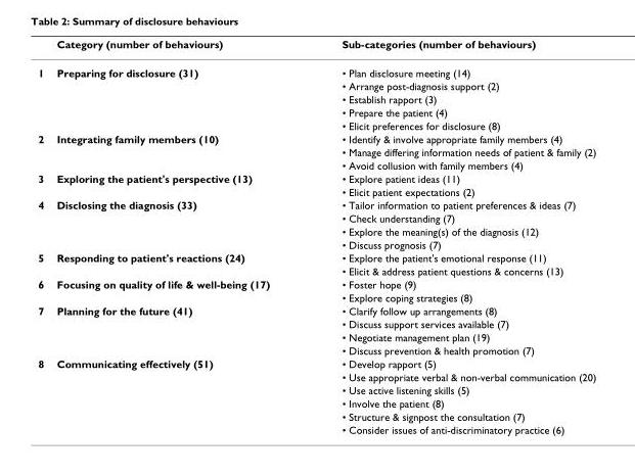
<table><thead><tr><td></td><td>Category (number of behaviours)</td><td>Sub-categories (number of behaviours)</td></tr></thead><tbody><tr><td rowspan="5">1</td><td>Preparing for disclosure (31)</td><td>• Plan disclosure meeting (14)</td></tr><tr><td></td><td>• Arrange post-diagnosis support (2)</td></tr><tr><td></td><td>• Establish rapport (3)</td></tr><tr><td></td><td>• Prepare the patient (4)</td></tr><tr><td></td><td>• Elicit preferences for disclosure (8)</td></tr><tr><td rowspan="3">2</td><td>Integrating family members (10)</td><td>• Identify &amp; involve appropriate family members (4)</td></tr><tr><td></td><td>• Manage differing information needs of patient &amp; family (2)</td></tr><tr><td></td><td>• Avoid collusion with family members (4)</td></tr><tr><td rowspan="2">3</td><td>Exploring the patient&#x27;s perspective (13)</td><td>• Explore patient ideas (11)</td></tr><tr><td></td><td>• Elicit patient expectations (2)</td></tr><tr><td rowspan="4">4</td><td>Disclosing the diagnosis (33)</td><td>• Tailor information to patient preferences &amp; ideas (7)</td></tr><tr><td></td><td>• Check understanding (7)</td></tr><tr><td></td><td>• Explore the meaning(s) of the diagnosis (12)</td></tr><tr><td></td><td>• Discuss prognosis (7)</td></tr><tr><td rowspan="2">5</td><td>Responding to patient&#x27;s reactions (24)</td><td>• Explore the patient&#x27;s emotional response (11)</td></tr><tr><td></td><td>• Elicit &amp; address patient questions &amp; concerns (13)</td></tr><tr><td rowspan="2">6</td><td>Focusing on quality of life &amp; well-being (17)</td><td>• Foster hope (9)</td></tr><tr><td></td><td>• Explore coping strategies (8)</td></tr><tr><td rowspan="4">7</td><td>Planning for the future (41)</td><td>• Clarify follow up arrangements (8)</td></tr><tr><td></td><td>• Discuss support services available (7)</td></tr><tr><td></td><td>• Negotiate management plan (19)</td></tr><tr><td></td><td>• Discuss prevention &amp; health promotion (7)</td></tr><tr><td rowspan="6">8</td><td>Communicating effectively (51)</td><td>• Develop rapport (5)</td></tr><tr><td></td><td>• Use appropriate verbal &amp; non-verbal communication (20)</td></tr><tr><td></td><td>• Use active listening skills (5)</td></tr><tr><td></td><td>• Involve the patient (8)</td></tr><tr><td></td><td>• Structure &amp; signpost the consultation (7)</td></tr><tr><td></td><td>• Consider issues of anti-discriminatory practice (6)</td></tr></tbody></table>